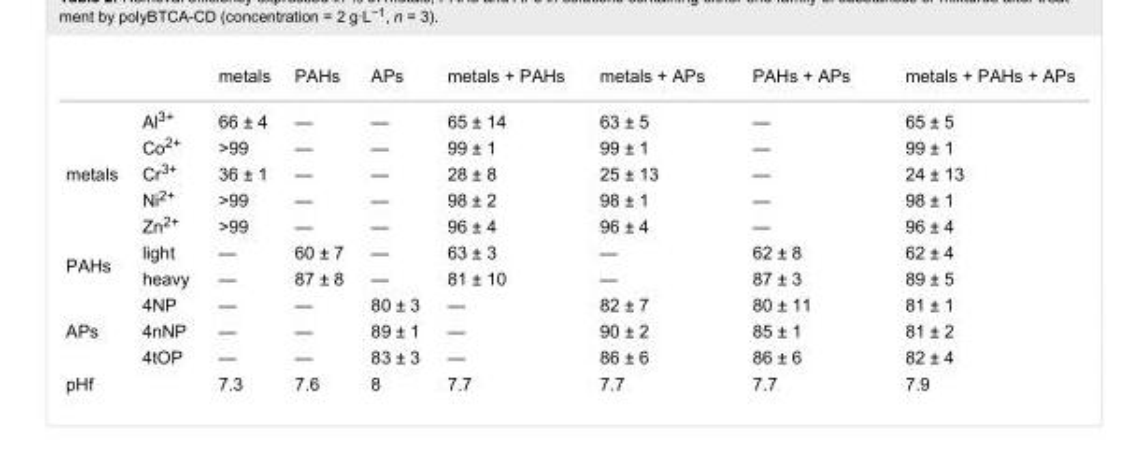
<table><thead><tr><td></td><td></td><td>metals</td><td>PAHs</td><td>APs</td><td>metals + PAHs</td><td>metals + APs</td><td>PAHs + APs</td><td>metals + PAHs + APs</td></tr></thead><tbody><tr><td rowspan="5">metals</td><td>Al<sup>3+</sup></td><td>66 ± 4</td><td>—</td><td>—</td><td>65 ± 14</td><td>63 ± 5</td><td>—</td><td>65 ± 5</td></tr><tr><td>Co<sup>2+</sup></td><td>&gt;99</td><td>—</td><td>—</td><td>99 ± 1</td><td>99 ± 1</td><td>—</td><td>99 ± 1</td></tr><tr><td>Cr<sup>3+</sup></td><td>36 ± 1</td><td>—</td><td>—</td><td>28 ± 8</td><td>25 ± 13</td><td>—</td><td>24 ± 13</td></tr><tr><td>Ni<sup>2+</sup></td><td>&gt;99</td><td>—</td><td>—</td><td>98 ± 2</td><td>98 ± 1</td><td>—</td><td>98 ± 1</td></tr><tr><td>Zn<sup>2+</sup></td><td>&gt;99</td><td>—</td><td>—</td><td>96 ± 4</td><td>96 ± 4</td><td>—</td><td>96 ± 4</td></tr><tr><td rowspan="2">PAHs</td><td>light</td><td>—</td><td>60 ± 7</td><td>—</td><td>63 ± 3</td><td>—</td><td>62 ± 8</td><td>62 ± 4</td></tr><tr><td>heavy</td><td>—</td><td>87 ± 8</td><td>—</td><td>81 ± 10</td><td>—</td><td>87 ± 3</td><td>89 ± 5</td></tr><tr><td rowspan="3">APs</td><td>4NP</td><td>—</td><td>—</td><td>80 ± 3</td><td>—</td><td>82 ± 7</td><td>80 ± 11</td><td>81 ± 1</td></tr><tr><td>4nNP</td><td>—</td><td>—</td><td>89 ± 1</td><td>—</td><td>90 ± 2</td><td>85 ± 1</td><td>81 ± 2</td></tr><tr><td>4tOP</td><td>—</td><td>—</td><td>83 ± 3</td><td>—</td><td>86 ± 6</td><td>86 ± 6</td><td>82 ± 4</td></tr><tr><td>pHf</td><td></td><td>7.3</td><td>7.6</td><td>8</td><td>7.7</td><td>7.7</td><td>7.7</td><td>7.9</td></tr></tbody></table>